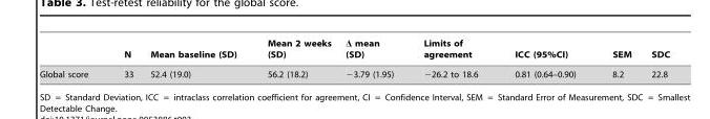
<table><thead><tr><td></td><td>N</td><td>Mean baseline (SD)</td><td>Mean 2 weeks (SD)</td><td>Δ mean (SD)</td><td>Limits of agreement</td><td>ICC (95%CI)</td><td>SEM</td><td>SDC</td></tr></thead><tbody><tr><td>Global score</td><td>33</td><td>52.4 (19.0)</td><td>56.2 (18.2)</td><td>−3.79 (1.95)</td><td>−26.2 to 18.6</td><td>0.81 (0.64–0.90)</td><td>8.2</td><td>22.8</td></tr></tbody></table>